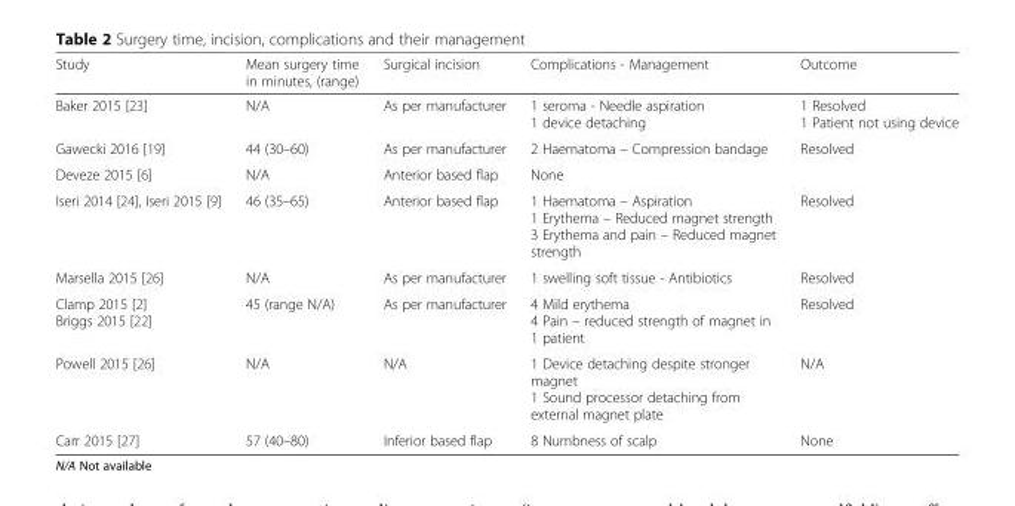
<table><thead><tr><td>Study</td><td>Mean surgery time in minutes, (range)</td><td>Surgical incision</td><td>Complications - Management</td><td>Outcome</td></tr></thead><tbody><tr><td>Baker 2015 [23]</td><td>N/A</td><td>As per manufacturer</td><td>1 seroma - Needle aspiration 1 device detaching</td><td>1 Resolved 1 Patient not using device</td></tr><tr><td>Gawecki 2016 [19]</td><td>44 (30–60)</td><td>As per manufacturer</td><td>2 Haematoma – Compression bandage</td><td>Resolved</td></tr><tr><td>Deveze 2015 [6]</td><td>N/A</td><td>Anterior based flap</td><td>None</td><td></td></tr><tr><td>Iseri 2014 [24], Iseri 2015 [9]</td><td>46 (35–65)</td><td>Anterior based flap</td><td>1 Haematoma – Aspiration 1 Erythema – Reduced magnet strength 3 Erythema and pain – Reduced magnet strength</td><td>Resolved</td></tr><tr><td>Marsella 2015 [26]</td><td>N/A</td><td>As per manufacturer</td><td>1 swelling soft tissue - Antibiotics</td><td>Resolved</td></tr><tr><td>Clamp 2015 [2] Briggs 2015 [22]</td><td>45 (range N/A)</td><td>As per manufacturer</td><td>4 Mild erythema 4 Pain – reduced strength of magnet in 1 patient</td><td>Resolved</td></tr><tr><td>Powell 2015 [26]</td><td>N/A</td><td>N/A</td><td>1 Device detaching despite stronger magnet 1 Sound processor detaching from external magnet plate</td><td>N/A</td></tr><tr><td>Carr 2015 [27]</td><td>57 (40–80)</td><td>Inferior based flap</td><td>8 Numbness of scalp</td><td>None</td></tr></tbody></table>